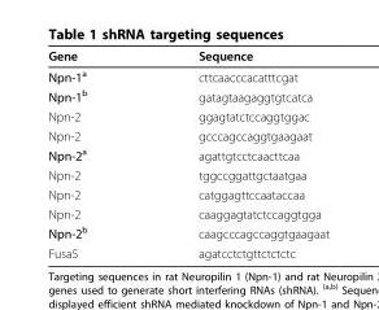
<table><thead><tr><td>Gene</td><td>Sequence</td></tr></thead><tbody><tr><td>Npn-1<sup>a</sup></td><td>cttcaacccacatttcgat</td></tr><tr><td>Npn-1<sup>b</sup></td><td>gatagtaagaggtgtcatca</td></tr><tr><td>Npn-2</td><td>ggagtatctccaggtggac</td></tr><tr><td>Npn-2</td><td>gcccagccaggtgaagaat</td></tr><tr><td>Npn-2<sup>a</sup></td><td>agattgtcctcaacttcaa</td></tr><tr><td>Npn-2</td><td>tggccggattgctaatgaa</td></tr><tr><td>Npn-2</td><td>catggagttccaataccaa</td></tr><tr><td>Npn-2</td><td>caaggagtatctccaggtgga</td></tr><tr><td>Npn-2<sup>b</sup></td><td>caagcccagccaggtgaagaat</td></tr><tr><td>Fusa5</td><td>agatcctctgttctctctc</td></tr></tbody></table>